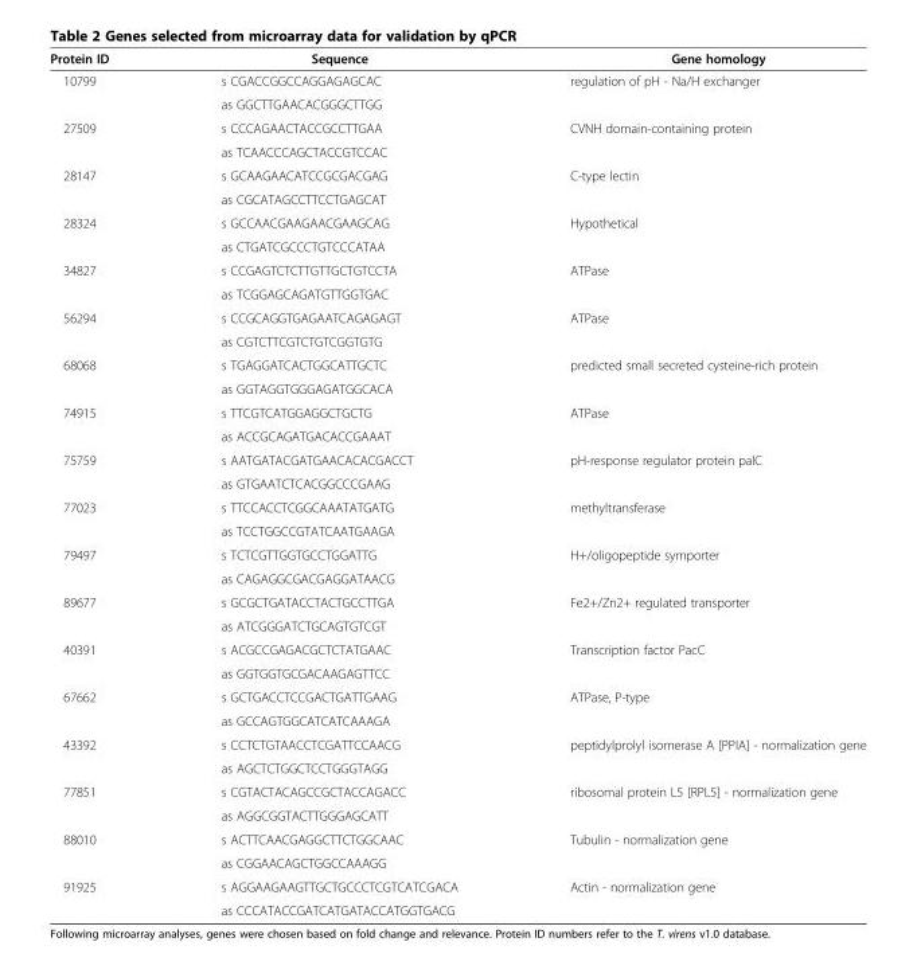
<table><thead><tr><td>Protein ID</td><td>Sequence</td><td>Gene homology</td></tr></thead><tbody><tr><td rowspan="2">10799</td><td>s CGACCGGCCAGGAGAGCAC</td><td rowspan="2">regulation of pH - Na/H exchanger</td></tr><tr><td>as GGCTTGAACACGGGCTTGG</td></tr><tr><td rowspan="2">27509</td><td>s CCCAGAACTACCGCCTTGAA</td><td rowspan="2">CVNH domain-containing protein</td></tr><tr><td>as TCAACCCAGCTACCGTCCAC</td></tr><tr><td rowspan="2">28147</td><td>s GCAAGAACATCCGCGACGAG</td><td rowspan="2">C-type lectin</td></tr><tr><td>as CGCATAGCCTTCCTGAGCAT</td></tr><tr><td rowspan="2">28324</td><td>s GCCAACGAAGAACGAAGCAG</td><td rowspan="2">Hypothetical</td></tr><tr><td>as CTGATCGCCCTGTCCCATAA</td></tr><tr><td rowspan="2">34827</td><td>s CCGAGTCTCTTGTTGCTGTCCTA</td><td rowspan="2">ATPase</td></tr><tr><td>as TCGGAGCAGATGTTGGTGAC</td></tr><tr><td rowspan="2">56294</td><td>s CCGCAGGTGAGAATCAGAGAGT</td><td rowspan="2">ATPase</td></tr><tr><td>as CGTCTTCGTCTGTCGGTGTG</td></tr><tr><td rowspan="2">68068</td><td>s TGAGGATCACTGGCATTGCTC</td><td rowspan="2">predicted small secreted cysteine-rich protein</td></tr><tr><td>as GGTAGGTGGGAGATGGCACA</td></tr><tr><td rowspan="2">74915</td><td>s TTCGTCATGGAGGCTGCTG</td><td rowspan="2">ATPase</td></tr><tr><td>as ACCGCAGATGACACCGAAAT</td></tr><tr><td rowspan="2">75759</td><td>s AATGATACGATGAACACACGACCT</td><td rowspan="2">pH-response regulator protein palC</td></tr><tr><td>as GTGAATCTCACGGCCCGAAG</td></tr><tr><td rowspan="2">77023</td><td>s TTCCACCTCGGCAAATATGATG</td><td rowspan="2">methyltransferase</td></tr><tr><td>as TCCTGGCCGTATCAATGAAGA</td></tr><tr><td rowspan="2">79497</td><td>s TCTCGTTGGTGCCTGGATTG</td><td rowspan="2">H+/oligopeptide symporter</td></tr><tr><td>as CAGAGGCGACGAGGATAACG</td></tr><tr><td rowspan="2">89677</td><td>s GCGCTGATACCTACTGCCTTGA</td><td rowspan="2">Fe2+/Zn2+ regulated transporter</td></tr><tr><td>as ATCGGGATCTGCAGTGTCGT</td></tr><tr><td rowspan="2">40391</td><td>s ACGCCGAGACGCTCTATGAAC</td><td rowspan="2">Transcription factor PacC</td></tr><tr><td>as GGTGGTGCGACAAGAGTTCC</td></tr><tr><td rowspan="2">67662</td><td>s GCTGACCTCCGACTGATTGAAG</td><td rowspan="2">ATPase, P-type</td></tr><tr><td>as GCCAGTGGCATCATCAAAGA</td></tr><tr><td rowspan="2">43392</td><td>s CCTCTGTAACCTCGATTCCAACG</td><td rowspan="2">peptidylprolyl isomerase A [PPIA] - normalization gene</td></tr><tr><td>as AGCTCTGGCTCCTGGGTAGG</td></tr><tr><td rowspan="2">77851</td><td>s CGTACTACAGCCGCTACCAGACC</td><td rowspan="2">ribosomal protein L5 [RPL5] - normalization gene</td></tr><tr><td>as AGGCGGTACTTGGGAGCATT</td></tr><tr><td rowspan="2">88010</td><td>s ACTTCAACGAGGCTTCTGGCAAC</td><td rowspan="2">Tubulin - normalization gene</td></tr><tr><td>as CGGAACAGCTGGCCAAAGG</td></tr><tr><td rowspan="2">91925</td><td>s AGGAAGAAGTTGCTGCCCTCGTCATCGACA</td><td>Actin - normalization gene</td></tr><tr><td>as CCCATACCGATCATGATACCATGGTGACG</td><td></td></tr></tbody></table>